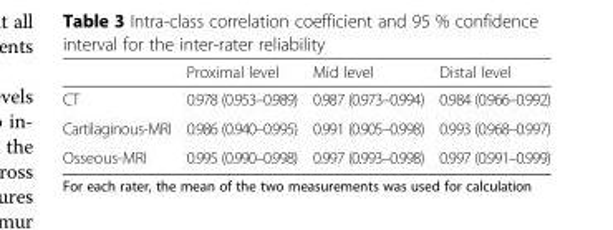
<table><thead><tr><td></td><td>Proximal level</td><td>Mid level</td><td>Distal level</td></tr></thead><tbody><tr><td>CT</td><td>0.978 (0.953–0.989)</td><td>0.987 (0.973–0.994)</td><td>0.984 (0.966–0.992)</td></tr><tr><td>Cartilaginous-MRI</td><td>0.986 (0.940–0.995)</td><td>0.991 (0.905–0.998)</td><td>0.993 (0.968–0.997)</td></tr><tr><td>Osseous-MRI</td><td>0.995 (0.990–0.998)</td><td>0.997 (0.993–0.998)</td><td>0.997 (0.991–0.999)</td></tr></tbody></table>